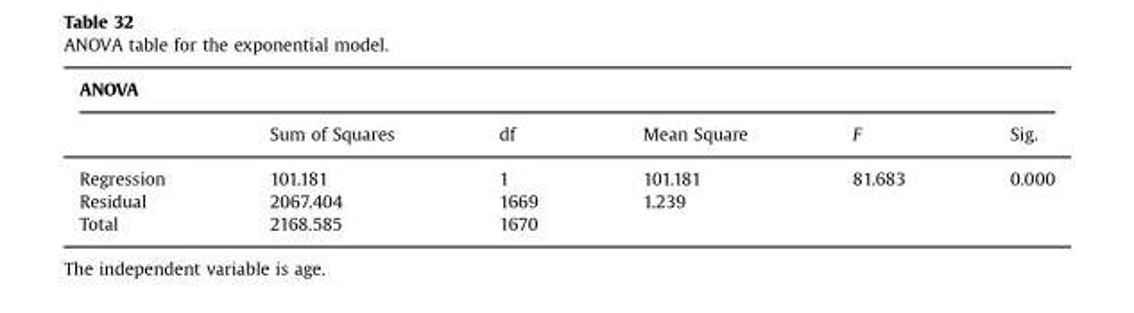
<table><thead><tr><td colspan="6">ANOVA</td></tr><tr><td></td><td>Sum of Squares</td><td>df</td><td>Mean Square</td><td>F</td><td>Sig.</td></tr></thead><tbody><tr><td>Regression</td><td>101.181</td><td>1</td><td>101.181</td><td>81.683</td><td>0.000</td></tr><tr><td>Residual</td><td>2067.404</td><td>1669</td><td>1.239</td><td></td><td></td></tr><tr><td>Total</td><td>2168.585</td><td>1670</td><td></td><td></td><td></td></tr></tbody></table>